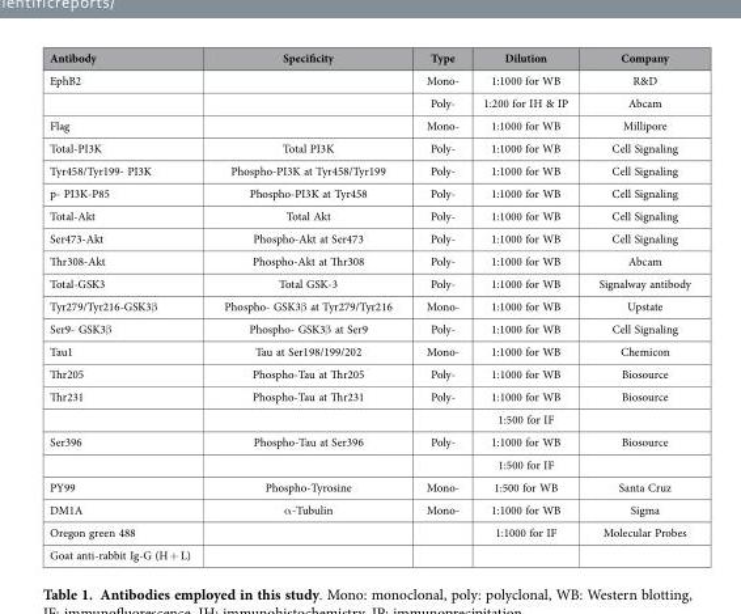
<table><thead><tr><td>Antibody</td><td>Specificity</td><td>Type</td><td>Dilution</td><td>Company</td></tr></thead><tbody><tr><td rowspan="2">EphB2</td><td></td><td>Mono-</td><td>1:1000 for WB</td><td>R&amp;D</td></tr><tr><td></td><td>Poly-</td><td>1:200 for IH &amp; IP</td><td>Abcam</td></tr><tr><td>Flag</td><td></td><td>Mono-</td><td>1:1000 for WB</td><td>Millipore</td></tr><tr><td>Total-PI3K</td><td>Total PI3K</td><td>Poly-</td><td>1:1000 for WB</td><td>Cell Signaling</td></tr><tr><td>Tyr458/Tyr199- PI3K</td><td>Phospho-PI3K at Tyr458/Tyr199</td><td>Poly-</td><td>1:1000 for WB</td><td>Cell Signaling</td></tr><tr><td>p- PI3K-P85</td><td>Phospho-PI3K at Tyr458</td><td>Poly-</td><td>1:1000 for WB</td><td>Cell Signaling</td></tr><tr><td>Total-Akt</td><td>Total Akt</td><td>Poly-</td><td>1:1000 for WB</td><td>Cell Signaling</td></tr><tr><td>Ser473-Akt</td><td>Phospho-Akt at Ser473</td><td>Poly-</td><td>1:1000 for WB</td><td>Cell Signaling</td></tr><tr><td>Thr308-Akt</td><td>Phospho-Akt at Thr308</td><td>Poly-</td><td>1:1000 for WB</td><td>Abcam</td></tr><tr><td>Total-GSK3</td><td>Total GSK-3</td><td>Poly-</td><td>1:1000 for WB</td><td>Signalway antibody</td></tr><tr><td>Tyr279/Tyr216-GSK3β</td><td>Phospho- GSK3β at Tyr279/Tyr216</td><td>Mono-</td><td>1:1000 for WB</td><td>Upstate</td></tr><tr><td>Ser9- GSK3β</td><td>Phospho- GSK3β at Ser9</td><td>Poly-</td><td>1:1000 for WB</td><td>Cell Signaling</td></tr><tr><td>Tau1</td><td>Tau at Ser198/199/202</td><td>Mono-</td><td>1:1000 for WB</td><td>Chemicon</td></tr><tr><td>Thr205</td><td>Phospho-Tau at Thr205</td><td>Poly-</td><td>1:1000 for WB</td><td>Biosource</td></tr><tr><td rowspan="2">Thr231</td><td>Phospho-Tau at Thr231</td><td>Poly-</td><td>1:1000 for WB</td><td>Biosource</td></tr><tr><td></td><td></td><td>1:500 for IF</td><td></td></tr><tr><td rowspan="2">Ser396</td><td>Phospho-Tau at Ser396</td><td>Poly-</td><td>1:1000 for WB</td><td>Biosource</td></tr><tr><td></td><td></td><td>1:500 for IF</td><td></td></tr><tr><td>PY99</td><td>Phospho-Tyrosine</td><td>Mono-</td><td>1:500 for WB</td><td>Santa Cruz</td></tr><tr><td>DM1A</td><td>α -Tubulin</td><td>Mono-</td><td>1:1000 for WB</td><td>Sigma</td></tr><tr><td>Oregon green 488</td><td></td><td></td><td>1:1000 for IF</td><td>Molecular Probes</td></tr><tr><td>Goat anti-rabbit Ig-G (H + L)</td><td></td><td></td><td></td><td></td></tr></tbody></table>